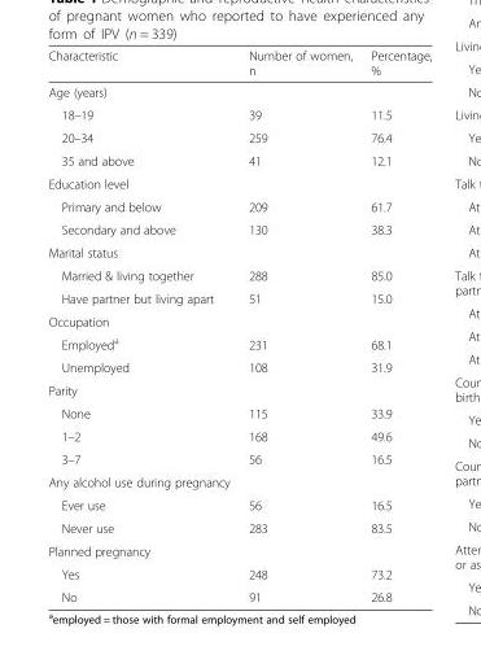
<table><thead><tr><td>Characteristic</td><td>Number of women, n</td><td>Percentage, %</td></tr></thead><tbody><tr><td colspan="3">Age (years)</td></tr><tr><td>18–19</td><td>39</td><td>11.5</td></tr><tr><td>20–34</td><td>259</td><td>76.4</td></tr><tr><td>35 and above</td><td>41</td><td>12.1</td></tr><tr><td colspan="3">Education level</td></tr><tr><td>Primary and below</td><td>209</td><td>61.7</td></tr><tr><td>Secondary and above</td><td>130</td><td>38.3</td></tr><tr><td colspan="3">Marital status</td></tr><tr><td>Married &amp; living together</td><td>288</td><td>85.0</td></tr><tr><td>Have partner but living apart</td><td>51</td><td>15.0</td></tr><tr><td colspan="3">Occupation</td></tr><tr><td>Employed<sup>a</sup></td><td>231</td><td>68.1</td></tr><tr><td>Unemployed</td><td>108</td><td>31.9</td></tr><tr><td colspan="3">Parity</td></tr><tr><td>None</td><td>115</td><td>33.9</td></tr><tr><td>1–2</td><td>168</td><td>49.6</td></tr><tr><td>3–7</td><td>56</td><td>16.5</td></tr><tr><td colspan="3">Any alcohol use during pregnancy</td></tr><tr><td>Ever use</td><td>56</td><td>16.5</td></tr><tr><td>Never use</td><td>283</td><td>83.5</td></tr><tr><td colspan="3">Planned pregnancy</td></tr><tr><td>Yes</td><td>248</td><td>73.2</td></tr><tr><td>No</td><td>91</td><td>26.8</td></tr></tbody></table>